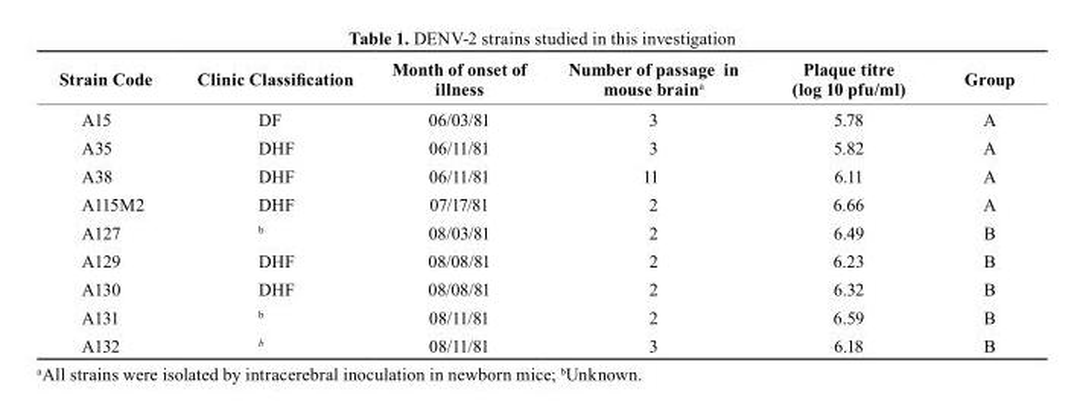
<table><thead><tr><td>strain code</td><td>Clinic Classification</td><td>Month of onset of illness</td><td>Number of passage in mouse brain<sup>a</sup></td><td>Plaque titre (log 10 pfu/ml)</td><td>Group</td></tr></thead><tbody><tr><td>A15</td><td>DF</td><td>06/03/81</td><td>3</td><td>5.78</td><td>A</td></tr><tr><td>A35</td><td>DHF</td><td>06/11/81</td><td>3</td><td>5.82</td><td>A</td></tr><tr><td>A38</td><td>DHF</td><td>06/11/81</td><td>11</td><td>6.11</td><td>A</td></tr><tr><td>A115M2</td><td>DHF</td><td>07/17/81</td><td>2</td><td>6.66</td><td>A</td></tr><tr><td>A127</td><td>b</td><td>08/03/81</td><td>2</td><td>6.49</td><td>B</td></tr><tr><td>A129</td><td>DHF</td><td>08/08/81</td><td>2</td><td>6.23</td><td>B</td></tr><tr><td>A130</td><td>DHF</td><td>08/08/81</td><td>2</td><td>6.32</td><td>B</td></tr><tr><td>A131</td><td>b</td><td>08/11/81</td><td>2</td><td>6.59</td><td>B</td></tr><tr><td>A132</td><td>b</td><td>08/11/81</td><td>3</td><td>6.18</td><td>B</td></tr></tbody></table>